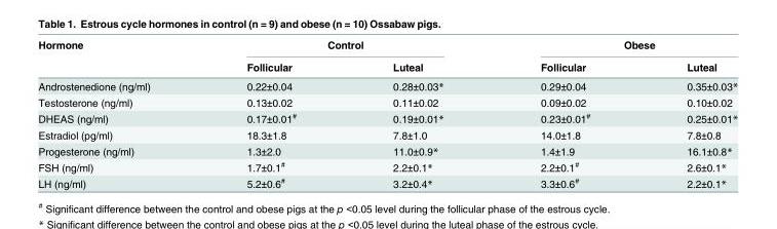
<table><thead><tr><td rowspan="2">Hormone</td><td colspan="2">Control</td><td colspan="2">Obese</td></tr><tr><td>Follicular</td><td>Luteal</td><td>Follicular</td><td>Luteal</td></tr></thead><tbody><tr><td>Androstenedione (ng/ml)</td><td>0.22±0.04</td><td>0.28±0.03*</td><td>0.29±0.04</td><td>0.35±0.03*</td></tr><tr><td>Testosterone (ng/ml)</td><td>0.13±0.02</td><td>0.11±0.02</td><td>0.09±0.02</td><td>0.10±0.02</td></tr><tr><td>DHEAS (ng/ml)</td><td>0.17±0.01<sup>#</sup></td><td>0.19±0.01*</td><td>0.23±0.01<sup>#</sup></td><td>0.25±0.01*</td></tr><tr><td>Estradiol (pg/ml)</td><td>18.3±1.8</td><td>7.8±1.0</td><td>14.0±1.8</td><td>7.8±0.8</td></tr><tr><td>Progesterone (ng/ml)</td><td>1.3±2.0</td><td>11.0±0.9*</td><td>1.4±1.9</td><td>16.1±0.8*</td></tr><tr><td>FSH (ng/ml)</td><td>1.7±0.1<sup>#</sup></td><td>2.2±0.1*</td><td>2.2±0.1<sup>#</sup></td><td>2.6±0.1*</td></tr><tr><td>LH (ng/ml)</td><td>5.2±0.6<sup>#</sup></td><td>3.2±0.4*</td><td>3.3±0.6<sup>#</sup></td><td>2.2±0.1*</td></tr></tbody></table>